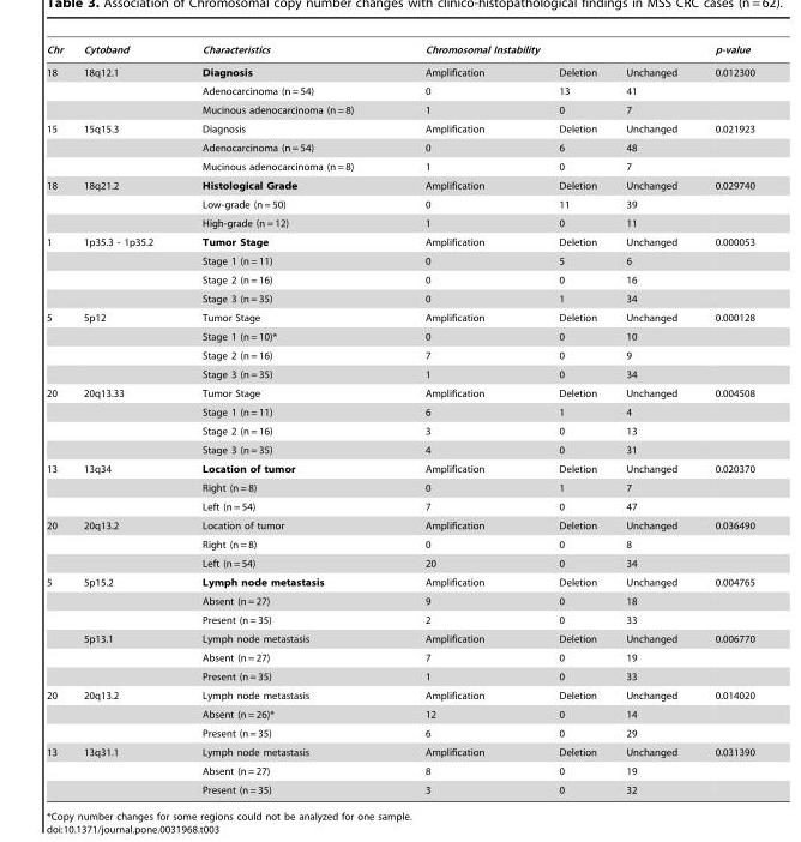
<table><thead><tr><td rowspan="2">Chr 18</td><td rowspan="2">Cytoband 18q12.1</td><td rowspan="2">Characteristics Diagnosis</td><td colspan="2">Chromosomal Instability</td><td rowspan="2">Unchanged</td><td rowspan="2">p-value 0.012300</td></tr><tr><td>Amplification</td><td>Deletion</td></tr></thead><tbody><tr><td></td><td></td><td>Adenocarcinoma (n = 54)</td><td>0</td><td>13</td><td>41</td><td></td></tr><tr><td></td><td></td><td>Mucinous adenocarcinoma (n = 8)</td><td>1</td><td>0</td><td>7</td><td></td></tr><tr><td rowspan="3">15</td><td>15q15.3</td><td>Diagnosis</td><td>Amplification</td><td>Deletion</td><td>Unchanged</td><td>0.021923</td></tr><tr><td></td><td>Adenocarcinoma (n = 54)</td><td>0</td><td>6</td><td>48</td><td></td></tr><tr><td></td><td>Mucinous adenocarcinoma (n = 8)</td><td>1</td><td>0</td><td>7</td><td></td></tr><tr><td rowspan="3">18</td><td>18q21.2</td><td>Histological Grade</td><td>Amplification</td><td>Deletion</td><td>Unchanged</td><td>0.029740</td></tr><tr><td></td><td>Low-grade (n = 50)</td><td>0</td><td>11</td><td>39</td><td></td></tr><tr><td></td><td>High-grade (n = 12)</td><td>1</td><td>0</td><td>11</td><td></td></tr><tr><td rowspan="4">1</td><td>1p35.3 - 1p35.2</td><td>Tumor Stage</td><td>Amplification</td><td>Deletion</td><td>Unchanged</td><td>0.000053</td></tr><tr><td></td><td>Stage 1 (n = 11)</td><td>0</td><td>5</td><td>6</td><td></td></tr><tr><td></td><td>Stage 2 (n = 16)</td><td>0</td><td>0</td><td>16</td><td></td></tr><tr><td></td><td>Stage 3 (n = 35)</td><td>0</td><td>1</td><td>34</td><td></td></tr><tr><td rowspan="4">5</td><td>5p12</td><td>Tumor Stage</td><td>Amplification</td><td>Deletion</td><td>Unchanged</td><td>0.000128</td></tr><tr><td></td><td>Stage 1 (n = 10)*</td><td>0</td><td>0</td><td>10</td><td></td></tr><tr><td></td><td>Stage 2 (n = 16)</td><td>7</td><td>0</td><td>9</td><td></td></tr><tr><td></td><td>Stage 3 (n = 35)</td><td>1</td><td>0</td><td>34</td><td></td></tr><tr><td rowspan="4">20</td><td>20q13.33</td><td>Tumor Stage</td><td>Amplification</td><td>Deletion</td><td>Unchanged</td><td>0.004508</td></tr><tr><td></td><td>Stage 1 (n = 11)</td><td>6</td><td>1</td><td>4</td><td></td></tr><tr><td></td><td>Stage 2 (n = 16)</td><td>3</td><td>0</td><td>13</td><td></td></tr><tr><td></td><td>Stage 3 (n = 35)</td><td>4</td><td>0</td><td>31</td><td></td></tr><tr><td rowspan="3">13</td><td>13q34</td><td>Location of tumor</td><td>Amplification</td><td>Deletion</td><td>Unchanged</td><td>0.020370</td></tr><tr><td></td><td>Right (n = 8)</td><td>0</td><td>1</td><td>7</td><td></td></tr><tr><td></td><td>Left (n = 54)</td><td>7</td><td>0</td><td>47</td><td></td></tr><tr><td rowspan="3">20</td><td>20q13.2</td><td>Location of tumor</td><td>Amplification</td><td>Deletion</td><td>Unchanged</td><td>0.036490</td></tr><tr><td></td><td>Right (n = 8)</td><td>0</td><td>0</td><td>8</td><td></td></tr><tr><td></td><td>Left (n = 54)</td><td>20</td><td>0</td><td>34</td><td></td></tr><tr><td rowspan="6">5</td><td>5p15.2</td><td>Lymph node metastasis</td><td>Amplification</td><td>Deletion</td><td>Unchanged</td><td>0.004765</td></tr><tr><td></td><td>Absent (n = 27)</td><td>9</td><td>0</td><td>18</td><td></td></tr><tr><td></td><td>Present (n = 35)</td><td>2</td><td>0</td><td>33</td><td></td></tr><tr><td>5p13.1</td><td>Lymph node metastasis</td><td>Amplification</td><td>Deletion</td><td>Unchanged</td><td>0.006770</td></tr><tr><td></td><td>Absent (n = 27)</td><td>7</td><td>0</td><td>19</td><td></td></tr><tr><td></td><td>Present (n = 35)</td><td>1</td><td>0</td><td>33</td><td></td></tr><tr><td rowspan="3">20</td><td>20q13.2</td><td>Lymph node metastasis</td><td>Amplification</td><td>Deletion</td><td>Unchanged</td><td>0.014020</td></tr><tr><td></td><td>Absent (n = 26)*</td><td>12</td><td>0</td><td>14</td><td></td></tr><tr><td></td><td>Present (n = 35)</td><td>6</td><td>0</td><td>29</td><td></td></tr><tr><td rowspan="3">13</td><td>13q31.1</td><td>Lymph node metastasis</td><td>Amplification</td><td>Deletion</td><td>Unchanged</td><td>0.031390</td></tr><tr><td></td><td>Absent (n = 27)</td><td>8</td><td>0</td><td>19</td><td></td></tr><tr><td></td><td>Present (n = 35)</td><td>3</td><td>0</td><td>32</td><td></td></tr></tbody></table>